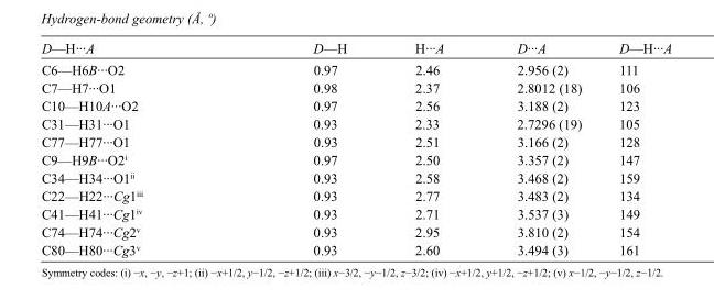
<table><tbody><tr><td>D—H···A</td><td>D—H</td><td>H···A</td><td>D···A</td><td>D—H···A</td></tr><tr><td>C6—H6B···O2</td><td>0.97</td><td>2.46</td><td>2.956 (2)</td><td>111</td></tr><tr><td>C7—H7···O1</td><td>0.98</td><td>2.37</td><td>2.8012 (18)</td><td>106</td></tr><tr><td>C10—H10A···O2</td><td>0.97</td><td>2.56</td><td>3.188 (2)</td><td>123</td></tr><tr><td>C31—H31···O1</td><td>0.93</td><td>2.33</td><td>2.7296 (19)</td><td>105</td></tr><tr><td>C77—H77···O1</td><td>0.93</td><td>2.51</td><td>3.166 (2)</td><td>128</td></tr><tr><td>C9—H9B···O2<sup>i</sup></td><td>0.97</td><td>2.50</td><td>3.357 (2)</td><td>147</td></tr><tr><td>C34—H34···O1<sup>ii</sup></td><td>0.93</td><td>2.58</td><td>3.468 (2)</td><td>159</td></tr><tr><td>C22—H22···Cg1<sup>iii</sup></td><td>0.93</td><td>2.77</td><td>3.483 (2)</td><td>134</td></tr><tr><td>C41—H41···Cg1<sup>iv</sup></td><td>0.93</td><td>2.71</td><td>3.537 (3)</td><td>149</td></tr><tr><td>C74—H74···Cg2<sup>v</sup></td><td>0.93</td><td>2.95</td><td>3.810 (2)</td><td>154</td></tr><tr><td>C80—H80···Cg3<sup>v</sup></td><td>0.93</td><td>2.60</td><td>3.494 (3)</td><td>161</td></tr></tbody></table>